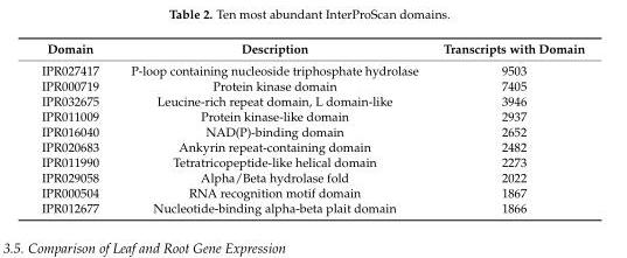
<table><thead><tr><td>Domain</td><td>Description</td><td>Transcripts with Domain</td></tr></thead><tbody><tr><td>IPR027417</td><td>P-loop containing nucleoside triphosphate hydrolase</td><td>9503</td></tr><tr><td>IPR000719</td><td>Protein kinase domain</td><td>7405</td></tr><tr><td>IPR032675</td><td>Leucine-rich repeat domain, L domain-like</td><td>3946</td></tr><tr><td>IPR011009</td><td>Protein kinase-like domain</td><td>2937</td></tr><tr><td>IPR016040</td><td>NAD(P)-binding domain</td><td>2652</td></tr><tr><td>IPR020683</td><td>Ankyrin repeat-containing domain</td><td>2482</td></tr><tr><td>IPR011990</td><td>Tetratricopeptide-like helical domain</td><td>2273</td></tr><tr><td>IPR029058</td><td>Alpha/Beta hydrolase fold</td><td>2022</td></tr><tr><td>IPR000504</td><td>RNA recognition motif domain</td><td>1867</td></tr><tr><td>IPR012677</td><td>Nucleotide-binding alpha-beta plait domain</td><td>1866</td></tr></tbody></table>